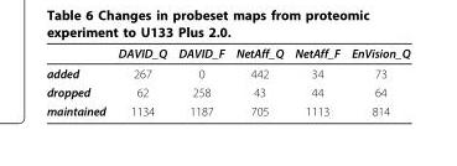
<table><thead><tr><td></td><td>DAVID_Q</td><td>DAVID_F</td><td>NetAff_Q</td><td>NetAff_F</td><td>EnVision_Q</td></tr></thead><tbody><tr><td>added</td><td>267</td><td>0</td><td>442</td><td>34</td><td>73</td></tr><tr><td>dropped</td><td>62</td><td>258</td><td>43</td><td>44</td><td>64</td></tr><tr><td>maintained</td><td>1134</td><td>1187</td><td>705</td><td>1113</td><td>814</td></tr></tbody></table>